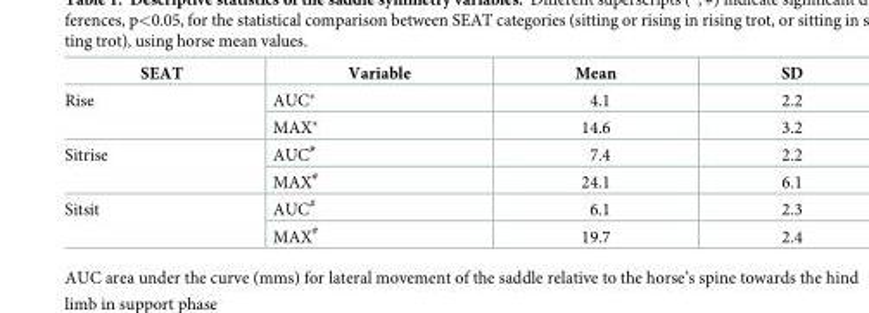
<table><thead><tr><td>SEAT</td><td>Variable</td><td>Mean</td><td>SD</td></tr></thead><tbody><tr><td rowspan="2">Rise</td><td>AUC*</td><td>4.1</td><td>2.2</td></tr><tr><td>MAX*</td><td>14.6</td><td>3.2</td></tr><tr><td rowspan="2">Sitrise</td><td>AUC<sup>#</sup></td><td>7.4</td><td>2.2</td></tr><tr><td>MAX<sup>#</sup></td><td>24.1</td><td>6.1</td></tr><tr><td rowspan="2">Sitsit</td><td>AUC<sup>#</sup></td><td>6.1</td><td>2.3</td></tr><tr><td>MAX<sup>#</sup></td><td>19.7</td><td>2.4</td></tr></tbody></table>